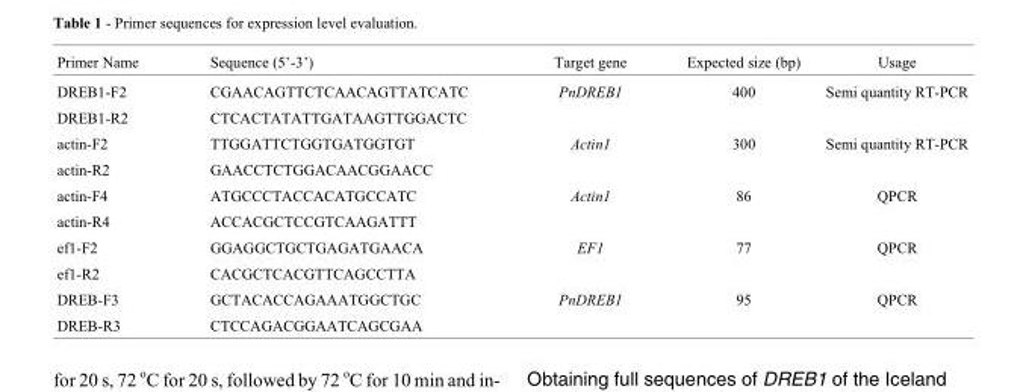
<table><thead><tr><td>Primer Name</td><td>Sequence (5’-3’)</td><td>Target gene</td><td>Expected size (bp)</td><td>Usage</td></tr></thead><tbody><tr><td>DREB1-F2</td><td>CGAACAGTTCTCAACAGTTATCATC</td><td>PnDREB1</td><td>400</td><td>Semi quantity RT-PCR</td></tr><tr><td>DREB1-R2</td><td>CTCACTATATTGATAAGTTGGACTC</td><td></td><td></td><td></td></tr><tr><td>actin-F2</td><td>TTGGATTCTGGTGATGGTGT</td><td>Actin1</td><td>300</td><td>Semi quantity RT-PCR</td></tr><tr><td>actin-R2</td><td>GAACCTCTGGACAACGGAACC</td><td></td><td></td><td></td></tr><tr><td>actin-F4</td><td>ATGCCCTACCACATGCCATC</td><td>Actin1</td><td>86</td><td>QPCR</td></tr><tr><td>actin-R4</td><td>ACCACGCTCCGTCAAGATTT</td><td></td><td></td><td></td></tr><tr><td>ef1-F2</td><td>GGAGGCTGCTGAGATGAACA</td><td>EF1</td><td>77</td><td>QPCR</td></tr><tr><td>ef1-R2</td><td>CACGCTCACGTTCAGCCTTA</td><td></td><td></td><td></td></tr><tr><td>DREB-F3</td><td>GCTACACCAGAAATGGCTGC</td><td>PnDREB1</td><td>95</td><td>QPCR</td></tr><tr><td>DREB-R3</td><td>CTCCAGACGGAATCAGCGAA</td><td></td><td></td><td></td></tr></tbody></table>